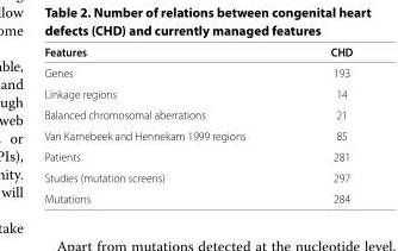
<table><thead><tr><td>Features</td><td>CHD</td></tr></thead><tbody><tr><td>Genes</td><td>193</td></tr><tr><td>Linkage regions</td><td>14</td></tr><tr><td>Balanced chromosomal aberrations</td><td>21</td></tr><tr><td>Van Karnebeek and Hennekam 1999 regions</td><td>85</td></tr><tr><td>Patients</td><td>281</td></tr><tr><td>Studies (mutation screens)</td><td>297</td></tr><tr><td>Mutations</td><td>284</td></tr></tbody></table>